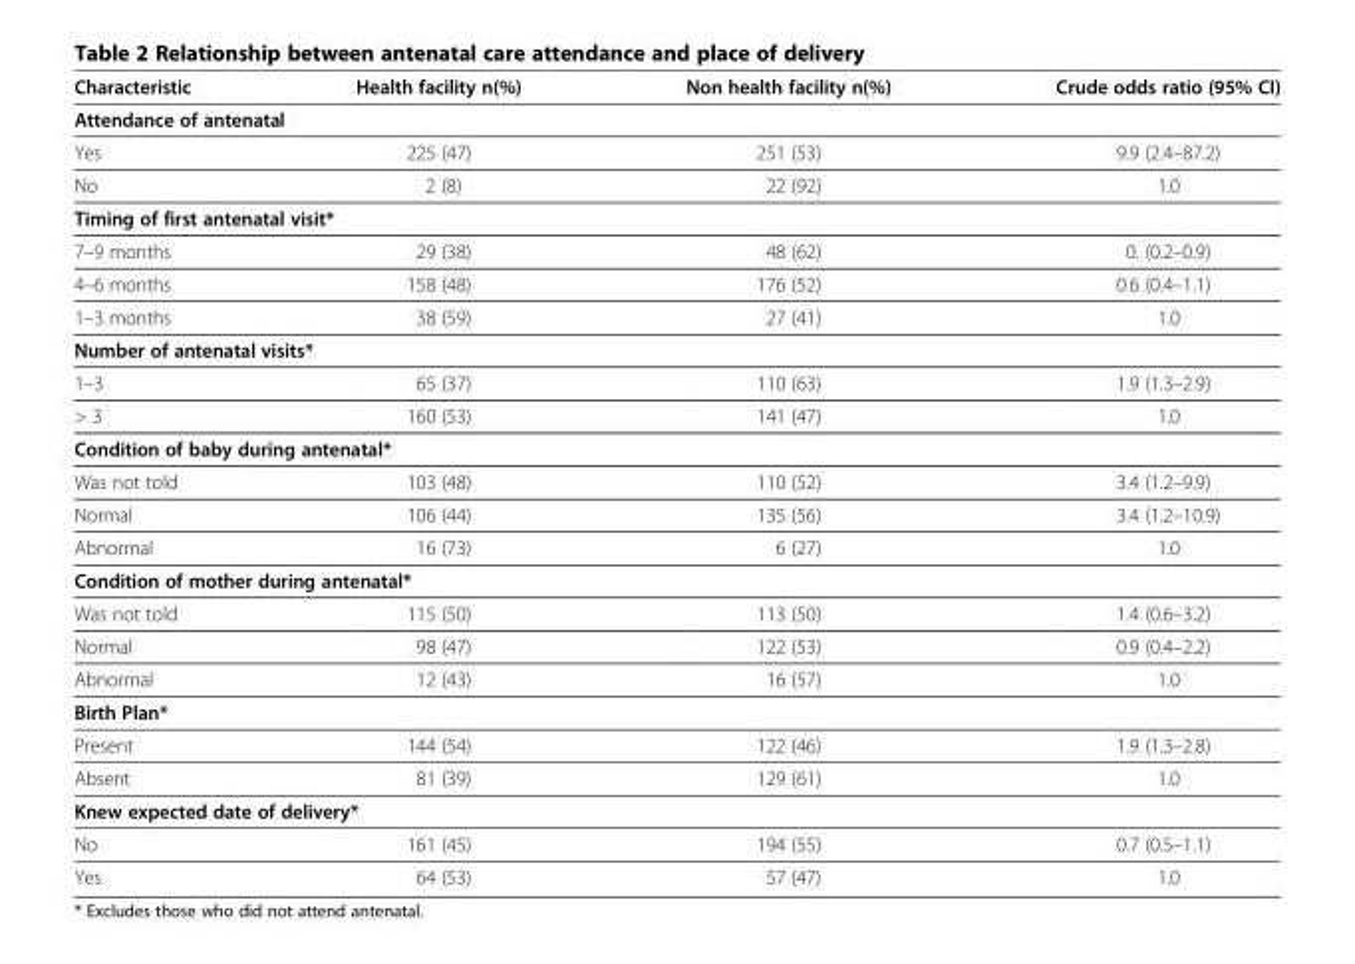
<table><thead><tr><td>Characteristic</td><td>Health facility n(%)</td><td>Non health facility n(%)</td><td>Crude odds ratio (95% CI)</td></tr></thead><tbody><tr><td colspan="4">Attendance of antenatal</td></tr><tr><td>Yes</td><td>225 (47)</td><td>251 (53)</td><td>9.9 (2.4–87.2)</td></tr><tr><td>No</td><td>2 (8)</td><td>22 (92)</td><td>1.0</td></tr><tr><td colspan="4">Timing of first antenatal visit*</td></tr><tr><td>7–9 months</td><td>29 (38)</td><td>48 (62)</td><td>0. (0.2–0.9)</td></tr><tr><td>4–6 months</td><td>158 (48)</td><td>176 (52)</td><td>0.6 (0.4–1.1)</td></tr><tr><td>1–3 months</td><td>38 (59)</td><td>27 (41)</td><td>1.0</td></tr><tr><td colspan="4">Number of antenatal visits*</td></tr><tr><td>1–3</td><td>65 (37)</td><td>110 (63)</td><td>1.9 (1.3–2.9)</td></tr><tr><td>&gt; 3</td><td>160 (53)</td><td>141 (47)</td><td>1.0</td></tr><tr><td colspan="4">Condition of baby during antenatal*</td></tr><tr><td>Was not told</td><td>103 (48)</td><td>110 (52)</td><td>3.4 (1.2–9.9)</td></tr><tr><td>Normal</td><td>106 (44)</td><td>135 (56)</td><td>3.4 (1.2–10.9)</td></tr><tr><td>Abnormal</td><td>16 (73)</td><td>6 (27)</td><td>1.0</td></tr><tr><td colspan="4">Condition of mother during antenatal*</td></tr><tr><td>Was not told</td><td>115 (50)</td><td>113 (50)</td><td>1.4 (0.6–3.2)</td></tr><tr><td>Normal</td><td>98 (47)</td><td>122 (53)</td><td>0.9 (0.4–2.2)</td></tr><tr><td>Abnormal</td><td>12 (43)</td><td>16 (57)</td><td>1.0</td></tr><tr><td colspan="4">Birth Plan*</td></tr><tr><td>Present</td><td>144 (54)</td><td>122 (46)</td><td>1.9 (1.3–2.8)</td></tr><tr><td>Absent</td><td>81 (39)</td><td>129 (61)</td><td>1.0</td></tr><tr><td colspan="4">Knew expected date of delivery*</td></tr><tr><td>No</td><td>161 (45)</td><td>194 (55)</td><td>0.7 (0.5–1.1)</td></tr><tr><td>Yes</td><td>64 (53)</td><td>57 (47)</td><td>1.0</td></tr></tbody></table>